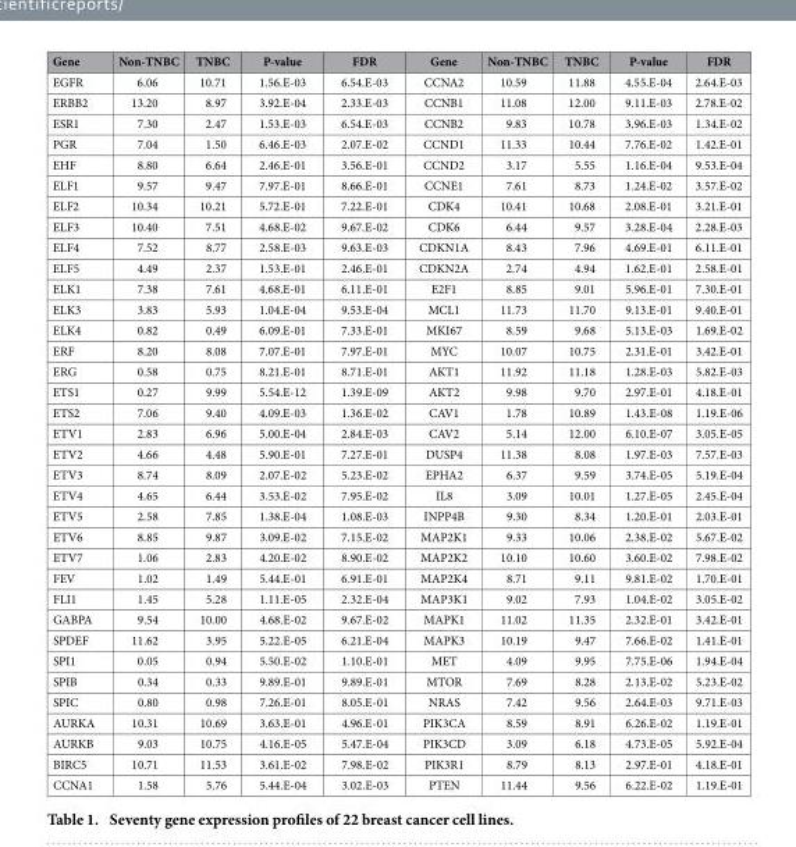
<table><thead><tr><td>Gene</td><td>Non-TNBC</td><td>TNBC</td><td>P-value</td><td>FDR</td><td>Gene</td><td>Non-TNBC</td><td>TNBC</td><td>P-value</td><td>FDR</td></tr></thead><tbody><tr><td>EGFR</td><td>6.06</td><td>10.71</td><td>1.56.E-03</td><td>6.54.E-03</td><td>CCNA2</td><td>10.59</td><td>11.88</td><td>4.55.E-04</td><td>2.64.E-03</td></tr><tr><td>ERBB2</td><td>13.20</td><td>8.97</td><td>3.92.E-04</td><td>2.33.E-03</td><td>CCNB1</td><td>11.08</td><td>12.00</td><td>9.11.E-03</td><td>2.78.E-02</td></tr><tr><td>ESR1</td><td>7.30</td><td>2.47</td><td>1.53.E-03</td><td>6.54.E-03</td><td>CCNB2</td><td>9.83</td><td>10.78</td><td>3.96.E-03</td><td>1.34.E-02</td></tr><tr><td>PGR</td><td>7.04</td><td>1.50</td><td>6.46.E-03</td><td>2.07.E-02</td><td>CCND1</td><td>11.33</td><td>10.44</td><td>7.76.E-02</td><td>1.42.E-01</td></tr><tr><td>EHF</td><td>8.80</td><td>6.64</td><td>2.46.E-01</td><td>3.56.E-01</td><td>CCND2</td><td>3.17</td><td>5.55</td><td>1.16.E-04</td><td>9.53.E-04</td></tr><tr><td>ELF1</td><td>9.57</td><td>9.47</td><td>7.97.E-01</td><td>8.66.E-01</td><td>CCNE1</td><td>7.61</td><td>8.73</td><td>1.24.E-02</td><td>3.57.E-02</td></tr><tr><td>ELF2</td><td>10.34</td><td>10.21</td><td>5.72.E-01</td><td>7.22.E-01</td><td>CDK4</td><td>10.41</td><td>10.68</td><td>2.08.E-01</td><td>3.21.E-01</td></tr><tr><td>ELF3</td><td>10.40</td><td>7.51</td><td>4.68.E-02</td><td>9.67.E-02</td><td>CDK6</td><td>6.44</td><td>9.57</td><td>3.28.E-04</td><td>2.28.E-03</td></tr><tr><td>ELF4</td><td>7.52</td><td>8.77</td><td>2.58.E-03</td><td>9.63.E-03</td><td>CDKN1A</td><td>8.43</td><td>7.96</td><td>4.69.E-01</td><td>6.11.E-01</td></tr><tr><td>ELF5</td><td>4.49</td><td>2.37</td><td>1.53.E-01</td><td>2.46.E-01</td><td>CDKN2A</td><td>2.74</td><td>4.94</td><td>1.62.E-01</td><td>2.58.E-01</td></tr><tr><td>ELK1</td><td>7.38</td><td>7.61</td><td>4.68.E-01</td><td>6.11.E-01</td><td>E2F1</td><td>8.85</td><td>9.01</td><td>5.96.E-01</td><td>7.30.E-01</td></tr><tr><td>ELK3</td><td>3.83</td><td>5.93</td><td>1.04.E-04</td><td>9.53.E-04</td><td>MCL1</td><td>11.73</td><td>11.70</td><td>9.13.E-01</td><td>9.40.E-01</td></tr><tr><td>ELK4</td><td>0.82</td><td>0.49</td><td>6.09.E-01</td><td>7.33.E-01</td><td>MKI67</td><td>8.59</td><td>9.68</td><td>5.13.E-03</td><td>1.69.E-02</td></tr><tr><td>ERF</td><td>8.20</td><td>8.08</td><td>7.07.E-01</td><td>7.97.E-01</td><td>MYC</td><td>10.07</td><td>10.75</td><td>2.31.E-01</td><td>3.42.E-01</td></tr><tr><td>ERG</td><td>0.58</td><td>0.75</td><td>8.21.E-01</td><td>8.71.E-01</td><td>AKT1</td><td>11.92</td><td>11.18</td><td>1.28.E-03</td><td>5.82.E-03</td></tr><tr><td>ETS1</td><td>0.27</td><td>9.99</td><td>5.54.E-12</td><td>1.39.E-09</td><td>AKT2</td><td>9.98</td><td>9.70</td><td>2.97.E-01</td><td>4.18.E-01</td></tr><tr><td>ETS2</td><td>7.06</td><td>9.40</td><td>4.09.E-03</td><td>1.36.E-02</td><td>CAV1</td><td>1.78</td><td>10.89</td><td>1.43.E-08</td><td>1.19.E-06</td></tr><tr><td>ETV1</td><td>2.83</td><td>6.96</td><td>5.00.E-04</td><td>2.84.E-03</td><td>CAV2</td><td>5.14</td><td>12.00</td><td>6.10.E-07</td><td>3.05.E-05</td></tr><tr><td>ETV2</td><td>4.66</td><td>4.48</td><td>5.90.E-01</td><td>7.27.E-01</td><td>DUSP4</td><td>11.38</td><td>8.08</td><td>1.97.E-03</td><td>7.57.E-03</td></tr><tr><td>ETV3</td><td>8.74</td><td>8.09</td><td>2.07.E-02</td><td>5.23.E-02</td><td>EPHA2</td><td>6.37</td><td>9.59</td><td>3.74.E-05</td><td>5.19.E-04</td></tr><tr><td>ETV4</td><td>4.65</td><td>6.44</td><td>3.53.E-02</td><td>7.95.E-02</td><td>IL8</td><td>3.09</td><td>10.01</td><td>1.27.E-05</td><td>2.45.E-04</td></tr><tr><td>ETV5</td><td>2.58</td><td>7.85</td><td>1.38.E-04</td><td>1.08.E-03</td><td>INPP4B</td><td>9.30</td><td>8.34</td><td>1.20.E-01</td><td>2.03.E-01</td></tr><tr><td>ETV6</td><td>8.85</td><td>9.87</td><td>3.09.E-02</td><td>7.15.E-02</td><td>MAP2K1</td><td>9.33</td><td>10.06</td><td>2.38.E-02</td><td>5.67.E-02</td></tr><tr><td>ETV7</td><td>1.06</td><td>2.83</td><td>4.20.E-02</td><td>8.90.E-02</td><td>MAP2K2</td><td>10.10</td><td>10.60</td><td>3.60.E-02</td><td>7.98.E-02</td></tr><tr><td>FEV</td><td>1.02</td><td>1.49</td><td>5.44.E-01</td><td>6.91.E-01</td><td>MAP2K4</td><td>8.71</td><td>9.11</td><td>9.81.E-02</td><td>1.70.E-01</td></tr><tr><td>FLI1</td><td>1.45</td><td>5.28</td><td>1.11.E-05</td><td>2.32.E-04</td><td>MAP3K1</td><td>9.02</td><td>7.93</td><td>1.04.E-02</td><td>3.05.E-02</td></tr><tr><td>GABPA</td><td>9.54</td><td>10.00</td><td>4.68.E-02</td><td>9.67.E-02</td><td>MAPK1</td><td>11.02</td><td>11.35</td><td>2.32.E-01</td><td>3.42.E-01</td></tr><tr><td>SPDEF</td><td>11.62</td><td>3.95</td><td>5.22.E-05</td><td>6.21.E-04</td><td>MAPK3</td><td>10.19</td><td>9.47</td><td>7.66.E-02</td><td>1.41.E-01</td></tr><tr><td>SPI1</td><td>0.05</td><td>0.94</td><td>5.50.E-02</td><td>1.10.E-01</td><td>MET</td><td>4.09</td><td>9.95</td><td>7.75.E-06</td><td>1.94.E-04</td></tr><tr><td>SPIB</td><td>0.34</td><td>0.33</td><td>9.89.E-01</td><td>9.89.E-01</td><td>MTOR</td><td>7.69</td><td>8.28</td><td>2.13.E-02</td><td>5.23.E-02</td></tr><tr><td>SPIC</td><td>0.80</td><td>0.98</td><td>7.26.E-01</td><td>8.05.E-01</td><td>NRAS</td><td>7.42</td><td>9.56</td><td>2.64.E-03</td><td>9.71.E-03</td></tr><tr><td>AURKA</td><td>10.31</td><td>10.69</td><td>3.63.E-01</td><td>4.96.E-01</td><td>PIK3CA</td><td>8.59</td><td>8.91</td><td>6.26.E-02</td><td>1.19.E-01</td></tr><tr><td>AURKB</td><td>9.03</td><td>10.75</td><td>4.16.E-05</td><td>5.47.E-04</td><td>PIK3CD</td><td>3.09</td><td>6.18</td><td>4.73.E-05</td><td>5.92.E-04</td></tr><tr><td>BIRC5</td><td>10.71</td><td>11.53</td><td>3.61.E-02</td><td>7.98.E-02</td><td>PIK3R1</td><td>8.79</td><td>8.13</td><td>2.97.E-01</td><td>4.18.E-01</td></tr><tr><td>CCNA1</td><td>1.58</td><td>5.76</td><td>5.44.E-04</td><td>3.02.E-03</td><td>PTEN</td><td>11.44</td><td>9.56</td><td>6.22.E-02</td><td>1.19.E-01</td></tr></tbody></table>